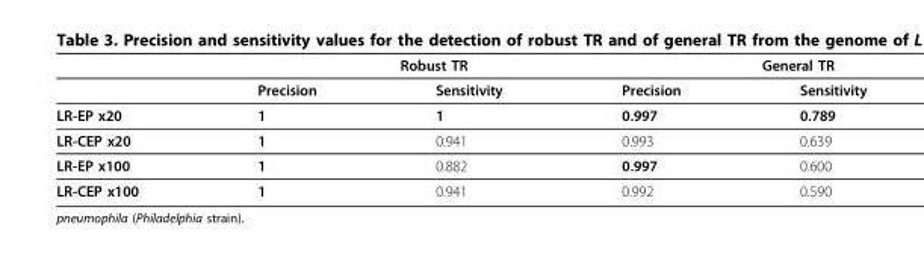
<table><thead><tr><td rowspan="2"></td><td colspan="2">Robust TR</td><td colspan="2">General TR</td></tr><tr><td>Precision</td><td>Sensitivity</td><td>Precision</td><td>Sensitivity</td></tr></thead><tbody><tr><td>LR-EP x20</td><td>1</td><td>1</td><td>0.997</td><td>0.789</td></tr><tr><td>LR-CEP x20</td><td>1</td><td>0.941</td><td>0.993</td><td>0.639</td></tr><tr><td>LR-EP x100</td><td>1</td><td>0.882</td><td>0.997</td><td>0.600</td></tr><tr><td>LR-CEP x100</td><td>1</td><td>0.941</td><td>0.992</td><td>0.590</td></tr></tbody></table>